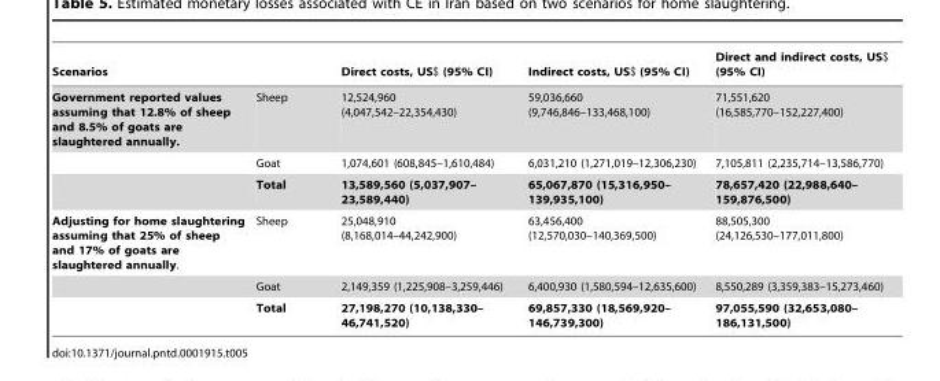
<table><thead><tr><td colspan="2">Scenarios</td><td rowspan="2">Direct costs, US$ (95% CI) 12,524,960 (4,047,542–22,354,430)</td><td rowspan="2">Indirect costs, US$ (95% CI) 59,036,660 (9,746,846–133,468,100)</td><td rowspan="2">Direct and indirect costs, US$ (95% CI) 71,551,620 (16,585,770–152,227,400)</td></tr><tr><td>Government reported values assuming that 12.8% of sheep and 8.5% of goats are slaughtered annually.</td><td>Sheep</td></tr></thead><tbody><tr><td></td><td>Goat</td><td>1,074,601 (608,845–1,610,484)</td><td>6,031,210 (1,271,019–12,306,230)</td><td>7,105,811 (2,235,714–13,586,770)</td></tr><tr><td></td><td>Total</td><td>13,589,560 (5,037,907– 23,589,440)</td><td>65,067,870 (15,316,950– 139,935,100)</td><td>78,657,420 (22,988,640– 159,876,500)</td></tr><tr><td rowspan="3">Adjusting for home slaughtering assuming that 25% of sheep and 17% of goats are slaughtered annually.</td><td>Sheep</td><td>25,048,910 (8,168,014–44,242,900)</td><td>63,456,400 (12,570,030–140,369,500)</td><td>88,505,300 (24,126,530–177,011,800)</td></tr><tr><td>Goat</td><td>2,149,359 (1,225,908–3,259,446)</td><td>6,400,930 (1,580,594–12,635,600)</td><td>8,550,289 (3,359,383–15,273,460)</td></tr><tr><td>Total</td><td>27,198,270 (10,138,330– 46,741,520)</td><td>69,857,330 (18,569,920– 146,739,300)</td><td>97,055,590 (32,653,080– 186,131,500)</td></tr></tbody></table>